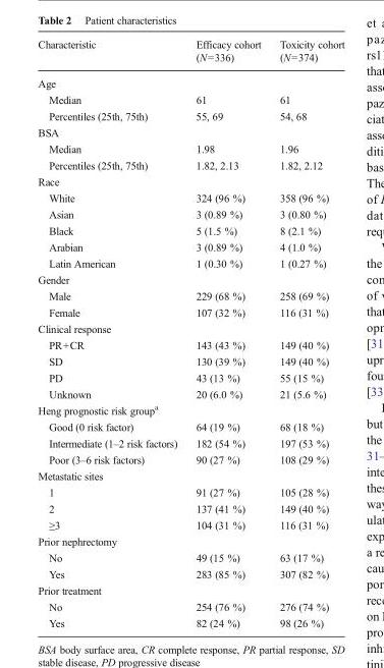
<table><thead><tr><td>Characteristic</td><td>Efficacy cohort (N=336)</td><td>Toxicity cohort (N=374)</td></tr></thead><tbody><tr><td colspan="3">Age</td></tr><tr><td>Median</td><td>61</td><td>61</td></tr><tr><td>Percentiles (25th, 75th)</td><td>55, 69</td><td>54, 68</td></tr><tr><td colspan="3">BSA</td></tr><tr><td>Median</td><td>1.98</td><td>1.96</td></tr><tr><td>Percentiles (25th, 75th)</td><td>1.82, 2.13</td><td>1.82, 2.12</td></tr><tr><td colspan="3">Race</td></tr><tr><td>White</td><td>324 (96 %)</td><td>358 (96 %)</td></tr><tr><td>Asian</td><td>3 (0.89 %)</td><td>3 (0.80 %)</td></tr><tr><td>Black</td><td>5 (1.5 %)</td><td>8 (2.1 %)</td></tr><tr><td>Arabian</td><td>3 (0.89 %)</td><td>4 (1.0 %)</td></tr><tr><td>Latin American</td><td>1 (0.30 %)</td><td>1 (0.27 %)</td></tr><tr><td colspan="3">Gender</td></tr><tr><td>Male</td><td>229 (68 %)</td><td>258 (69 %)</td></tr><tr><td>Female</td><td>107 (32 %)</td><td>116 (31 %)</td></tr><tr><td colspan="3">Clinical response</td></tr><tr><td>PR+CR</td><td>143 (43 %)</td><td>149 (40 %)</td></tr><tr><td>SD</td><td>130 (39 %)</td><td>149 (40 %)</td></tr><tr><td>PD</td><td>43 (13 %)</td><td>55 (15 %)</td></tr><tr><td>Unknown</td><td>20 (6.0 %)</td><td>21 (5.6 %)</td></tr><tr><td colspan="3">Heng prognostic risk group<sup>a</sup></td></tr><tr><td>Good (0 risk factor)</td><td>64 (19 %)</td><td>68 (18 %)</td></tr><tr><td>Intermediate (1–2 risk factors)</td><td>182 (54 %)</td><td>197 (53 %)</td></tr><tr><td>Poor (3–6 risk factors)</td><td>90 (27 %)</td><td>108 (29 %)</td></tr><tr><td colspan="3">Metastatic sites</td></tr><tr><td>1</td><td>91 (27 %)</td><td>105 (28 %)</td></tr><tr><td>2</td><td>137 (41 %)</td><td>149 (40 %)</td></tr><tr><td>≥3</td><td>104 (31 %)</td><td>116 (31 %)</td></tr><tr><td colspan="3">Prior nephrectomy</td></tr><tr><td>No</td><td>49 (15 %)</td><td>63 (17 %)</td></tr><tr><td>Yes</td><td>283 (85 %)</td><td>307 (82 %)</td></tr><tr><td colspan="3">Prior treatment</td></tr><tr><td>No</td><td>254 (76 %)</td><td>276 (74 %)</td></tr><tr><td>Yes</td><td>82 (24 %)</td><td>98 (26 %)</td></tr></tbody></table>